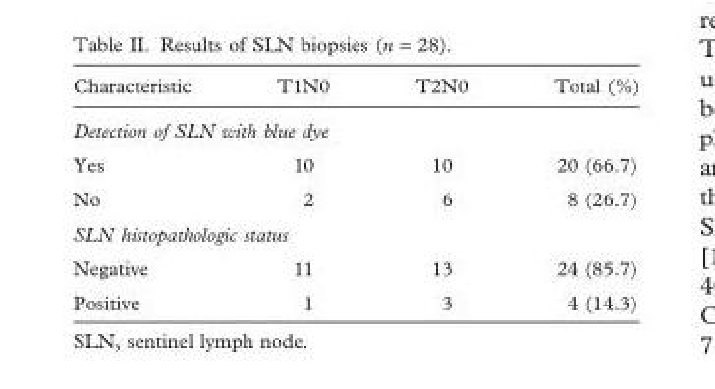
<table><thead><tr><td>Characteristic</td><td>T1N0</td><td>T2N0</td><td>Total (%)</td></tr></thead><tbody><tr><td colspan="4">Detection of SLN with blue dye</td></tr><tr><td>Yes</td><td>10</td><td>10</td><td>20 (66.7)</td></tr><tr><td>No</td><td>2</td><td>6</td><td>8 (26.7)</td></tr><tr><td colspan="4">SLN histopathologic status</td></tr><tr><td>Negative</td><td>11</td><td>13</td><td>24 (85.7)</td></tr><tr><td>Positive</td><td>1</td><td>3</td><td>4 (14.3)</td></tr></tbody></table>